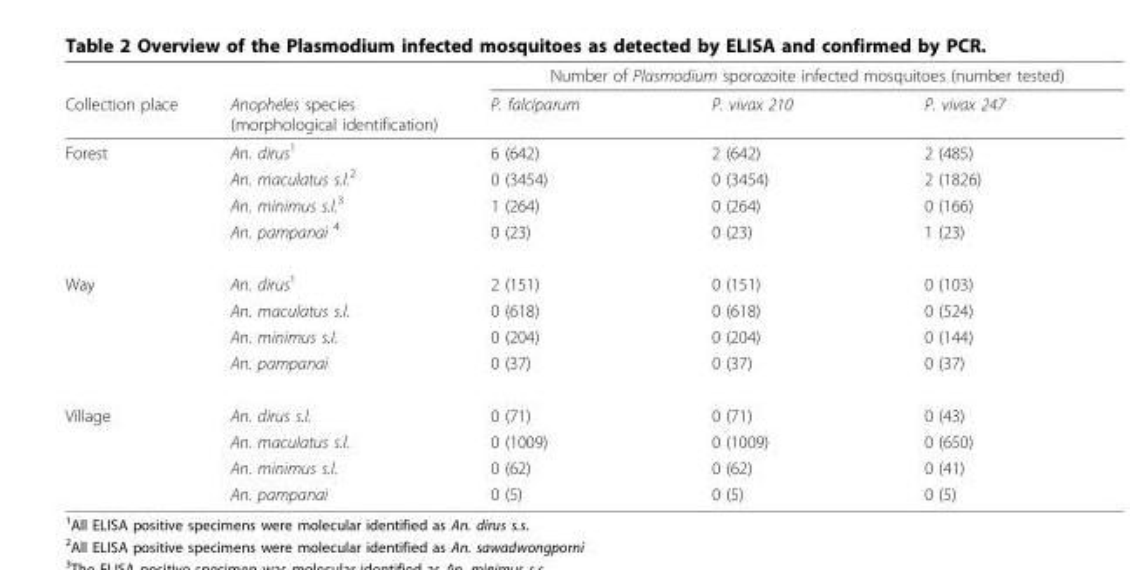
<table><thead><tr><td rowspan="2">Collection place</td><td rowspan="2">Anopheles species (morphological identification)</td><td colspan="3">Number of Plasmodium sporozoite infected mosquitoes (number tested)</td></tr><tr><td>P. falciparum</td><td>P. vivax 210</td><td>P. vivax 247</td></tr></thead><tbody><tr><td rowspan="4">Forest</td><td>An. dirus<sup>1</sup></td><td>6 (642)</td><td>2 (642)</td><td>2 (485)</td></tr><tr><td>An. maculatus s.l.<sup>2</sup></td><td>0 (3454)</td><td>0 (3454)</td><td>2 (1826)</td></tr><tr><td>An. minimus s.l.<sup>3</sup></td><td>1 (264)</td><td>0 (264)</td><td>0 (166)</td></tr><tr><td>An. pampanai <sup>4</sup></td><td>0 (23)</td><td>0 (23)</td><td>1 (23)</td></tr><tr><td rowspan="4">Way</td><td>An. dirus<sup>1</sup></td><td>2 (151)</td><td>0 (151)</td><td>0 (103)</td></tr><tr><td>An. maculatus s.l.</td><td>0 (618)</td><td>0 (618)</td><td>0 (524)</td></tr><tr><td>An. minimus s.l.</td><td>0 (204)</td><td>0 (204)</td><td>0 (144)</td></tr><tr><td>An. pampanai</td><td>0 (37)</td><td>0 (37)</td><td>0 (37)</td></tr><tr><td rowspan="4">Village</td><td>An. dirus s.l.</td><td>0 (71)</td><td>0 (71)</td><td>0 (43)</td></tr><tr><td>An. maculatus s.l.</td><td>0 (1009)</td><td>0 (1009)</td><td>0 (650)</td></tr><tr><td>An. minimus s.l.</td><td>0 (62)</td><td>0 (62)</td><td>0 (41)</td></tr><tr><td>An. pampanai</td><td>0 (5)</td><td>0 (5)</td><td>0 (5)</td></tr></tbody></table>